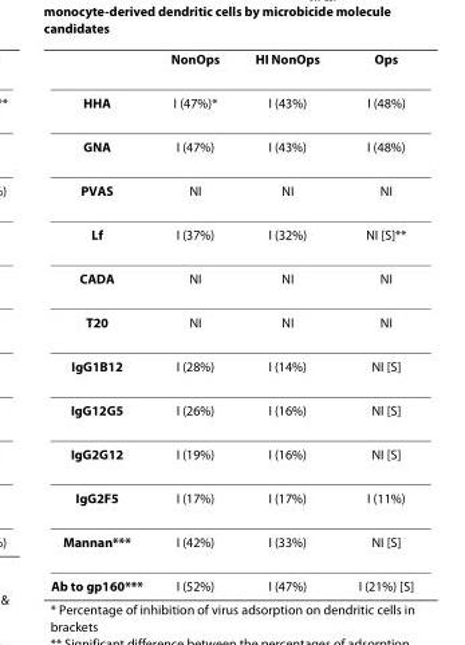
<table><thead><tr><td></td><td>NonOps</td><td>HI NonOps</td><td>Ops</td></tr></thead><tbody><tr><td>HHA</td><td>I (47%)*</td><td>I (43%)</td><td>I (48%)</td></tr><tr><td>GNA</td><td>I (47%)</td><td>I (43%)</td><td>I (48%)</td></tr><tr><td>PVAS</td><td>NI</td><td>NI</td><td>NI</td></tr><tr><td>Lf</td><td>I (37%)</td><td>I (32%)</td><td>NI [S]**</td></tr><tr><td>CADA</td><td>NI</td><td>NI</td><td>NI</td></tr><tr><td>T20</td><td>NI</td><td>NI</td><td>NI</td></tr><tr><td>IgG1B12</td><td>I (28%)</td><td>I (14%)</td><td>NI [S]</td></tr><tr><td>IgG12G5</td><td>I (26%)</td><td>I (16%)</td><td>NI [S]</td></tr><tr><td>IgG2G12</td><td>I (19%)</td><td>I (16%)</td><td>NI [S]</td></tr><tr><td>IgG2F5</td><td>I (17%)</td><td>I (17%)</td><td>I (11%)</td></tr><tr><td>Mannan***</td><td>I (42%)</td><td>I (33%)</td><td>NI [S]</td></tr><tr><td>Ab to gp160***</td><td>I (52%)</td><td>I (47%)</td><td>I (21%) [S]</td></tr></tbody></table>